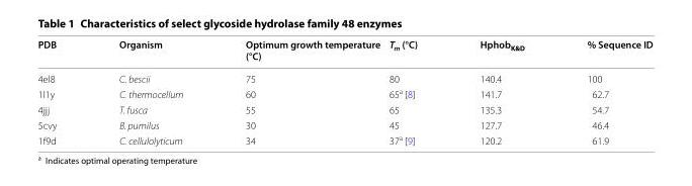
<table><thead><tr><td>PDB</td><td>Organism</td><td>Optimum growth temperature (°C)</td><td>T<sub>m</sub> (°C)</td><td>Hphob<sub>K&amp;D</sub></td><td>% Sequence ID</td></tr></thead><tbody><tr><td>4el8</td><td>C. bescii</td><td>75</td><td>80</td><td>140.4</td><td>100</td></tr><tr><td>1l1y</td><td>C. thermocellum</td><td>60</td><td>65<sup>a</sup> [8]</td><td>141.7</td><td>62.7</td></tr><tr><td>4jjj</td><td>T. fusca</td><td>55</td><td>65</td><td>135.3</td><td>54.7</td></tr><tr><td>5cvy</td><td>B. pumilus</td><td>30</td><td>45</td><td>127.7</td><td>46.4</td></tr><tr><td>1f9d</td><td>C. cellulolyticum</td><td>34</td><td>37<sup>a</sup> [9]</td><td>120.2</td><td>61.9</td></tr></tbody></table>